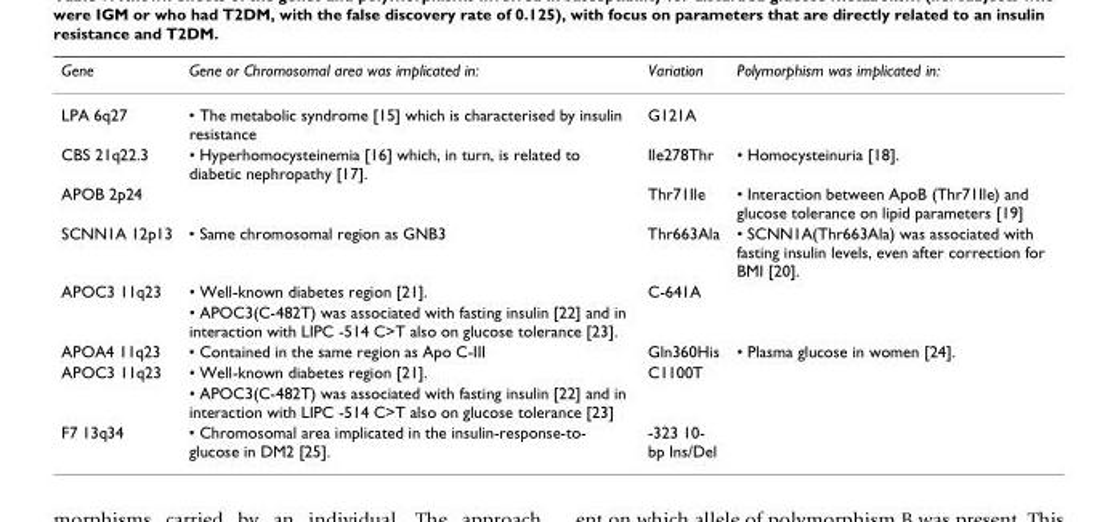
<table><thead><tr><td>Gene</td><td>Gene or Chromosomal area was implicated in:</td><td>Variation</td><td>Polymorphism was implicated in:</td></tr></thead><tbody><tr><td>LPA 6q27</td><td>• The metabolic syndrome [15] which is characterised by insulin resistance</td><td>G121A</td><td></td></tr><tr><td>CBS 21q22.3</td><td>• Hyperhomocysteinemia [16] which, in turn, is related to diabetic nephropathy [17].</td><td>Ile278Thr</td><td>• Homocysteinuria [18].</td></tr><tr><td>APOB 2p24</td><td></td><td>Thr71Ile</td><td>• Interaction between ApoB (Thr71Ile) and glucose tolerance on lipid parameters [19]</td></tr><tr><td>SCNN1A 12p13</td><td>• Same chromosomal region as GNB3</td><td>Thr663Ala</td><td>• SCNN1A(Thr663Ala) was associated with fasting insulin levels, even after correction for BMI [20].</td></tr><tr><td rowspan="2">APOC3 11q23</td><td>• Well-known diabetes region [21].</td><td>C-641A</td><td></td></tr><tr><td>• APOC3(C-482T) was associated with fasting insulin [22] and in interaction with LIPC -514 C&gt;T also on glucose tolerance [23].</td><td></td><td></td></tr><tr><td>APOA4 11q23</td><td>• Contained in the same region as Apo C-III</td><td>Gln360His</td><td>• Plasma glucose in women [24].</td></tr><tr><td rowspan="2">APOC3 11q23</td><td>• Well-known diabetes region [21].</td><td>C1100T</td><td></td></tr><tr><td>• APOC3(C-482T) was associated with fasting insulin [22] and in interaction with LIPC -514 C&gt;T also on glucose tolerance [23]</td><td></td><td></td></tr><tr><td>F7 13q34</td><td>• Chromosomal area implicated in the insulin-response-to- glucose in DM2 [25].</td><td>-323 10- bp Ins/Del</td><td></td></tr></tbody></table>